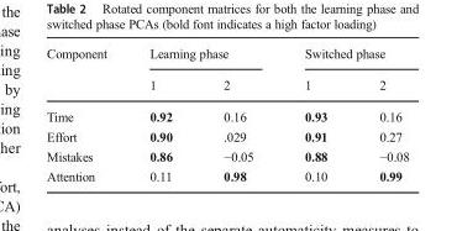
<table><thead><tr><td rowspan="2">Component</td><td colspan="2">Learning phase</td><td colspan="2">Switched phase</td></tr><tr><td>1</td><td>2</td><td>1</td><td>2</td></tr></thead><tbody><tr><td>Time</td><td>0.92</td><td>0.16</td><td>0.93</td><td>0.16</td></tr><tr><td>Effort</td><td>0.90</td><td>.029</td><td>0.91</td><td>0.27</td></tr><tr><td>Mistakes</td><td>0.86</td><td>−0.05</td><td>0.88</td><td>−0.08</td></tr><tr><td>Attention</td><td>0.11</td><td>0.98</td><td>0.10</td><td>0.99</td></tr></tbody></table>